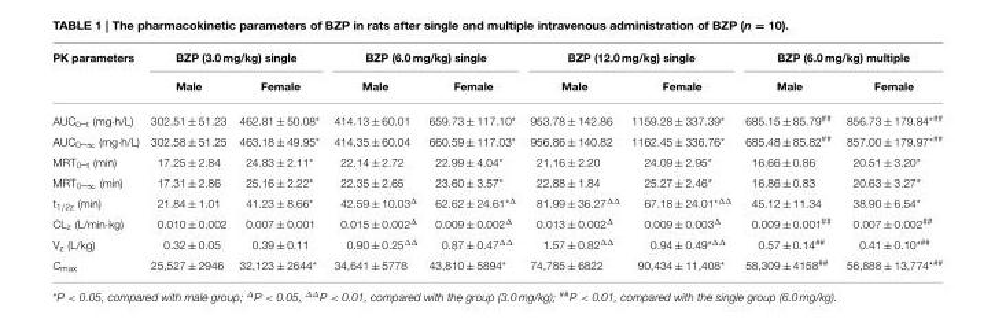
<table><thead><tr><td rowspan="2">PK parameters</td><td colspan="2">BZP (3.0 mg/kg) single</td><td colspan="2">BZP (6.0 mg/kg) single</td><td colspan="2">BZP (12.0 mg/kg) single</td><td colspan="2">BZP (6.0 mg/kg) multiple</td></tr><tr><td>Male</td><td>Female</td><td>Male</td><td>Female</td><td>Male</td><td>Female</td><td>Male</td><td>Female</td></tr></thead><tbody><tr><td>AUC<sub>0–t</sub> (mg·h/L)</td><td>302.51 ± 51.23</td><td>462.81 ± 50.08*</td><td>414.13 ± 60.01</td><td>659.73 ± 117.10*</td><td>953.78 ± 142.86</td><td>1159.28 ± 337.39*</td><td>685.15 ± 85.79<sup>##</sup></td><td>856.73 ± 179.84<sup>*##</sup></td></tr><tr><td>AUC<sub>0–∞</sub> (mg·h/L)</td><td>302.58 ± 51.25</td><td>463.18 ± 49.95*</td><td>414.35 ± 60.04</td><td>660.59 ± 117.03*</td><td>956.86 ± 140.82</td><td>1162.45 ± 336.76*</td><td>685.48 ± 85.82<sup>##</sup></td><td>857.00 ± 179.97<sup>*##</sup></td></tr><tr><td>MRT<sub>0–t</sub> (min)</td><td>17.25 ± 2.84</td><td>24.83 ± 2.11*</td><td>22.14 ± 2.72</td><td>22.99 ± 4.04*</td><td>21.16 ± 2.20</td><td>24.09 ± 2.95*</td><td>16.66 ± 0.86</td><td>20.51 ± 3.20*</td></tr><tr><td>MRT<sub>0–∞</sub> (min)</td><td>17.31 ± 2.86</td><td>25.16 ± 2.22*</td><td>22.35 ± 2.65</td><td>23.60 ± 3.57*</td><td>22.88 ± 1.84</td><td>25.27 ± 2.46*</td><td>16.86 ± 0.83</td><td>20.63 ± 3.27*</td></tr><tr><td>t<sub>1/2z</sub> (min)</td><td>21.84 ± 1.01</td><td>41.23 ± 8.66*</td><td>42.59 ± 10.03<sup>Δ</sup></td><td>62.62 ± 24.61<sup>*Δ</sup></td><td>81.99 ± 36.27<sup>ΔΔ</sup></td><td>67.18 ± 24.01<sup>*ΔΔ</sup></td><td>45.12 ± 11.34</td><td>38.90 ± 6.54*</td></tr><tr><td>CL<sub>z</sub> (L/min·kg)</td><td>0.010 ± 0.002</td><td>0.007 ± 0.001</td><td>0.015 ± 0.002<sup>Δ</sup></td><td>0.009 ± 0.002<sup>Δ</sup></td><td>0.013 ± 0.002<sup>Δ</sup></td><td>0.009 ± 0.003<sup>Δ</sup></td><td>0.009 ± 0.001<sup>##</sup></td><td>0.007 ± 0.002<sup>##</sup></td></tr><tr><td>V<sub>z</sub> (L/kg)</td><td>0.32 ± 0.05</td><td>0.39 ± 0.11</td><td>0.90 ± 0.25<sup>ΔΔ</sup></td><td>0.87 ± 0.47<sup>ΔΔ</sup></td><td>1.57 ± 0.82<sup>ΔΔ</sup></td><td>0.94 ± 0.49<sup>*ΔΔ</sup></td><td>0.57 ± 0.14<sup>##</sup></td><td>0.41 ± 0.10<sup>*##</sup></td></tr><tr><td>C<sub>max</sub></td><td>25‚527 ± 2946</td><td>32‚123 ± 2644*</td><td>34‚641 ± 5778</td><td>43‚810 ± 5894*</td><td>74‚785 ± 6822</td><td>90‚434 ± 11‚408*</td><td>58‚309 ± 4158##</td><td>56‚888 ± 13‚774*##</td></tr></tbody></table>